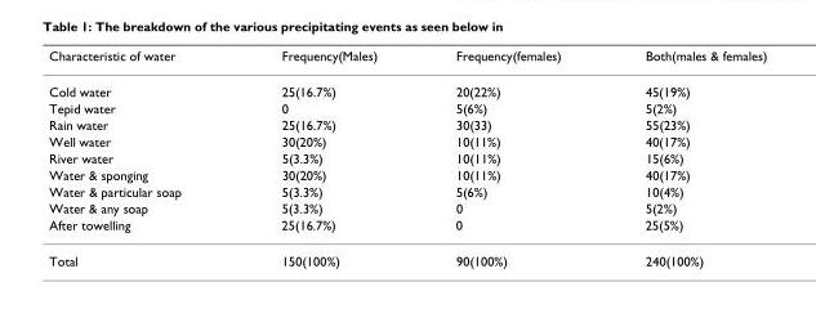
<table><thead><tr><td>Characteristic of water</td><td>Frequency(Males)</td><td>Frequency(females)</td><td>Both(males &amp; females)</td></tr></thead><tbody><tr><td>Cold water</td><td>25(16.7%)</td><td>20(22%)</td><td>45(19%)</td></tr><tr><td>Tepid water</td><td>0</td><td>5(6%)</td><td>5(2%)</td></tr><tr><td>Rain water</td><td>25(16.7%)</td><td>30(33)</td><td>55(23%)</td></tr><tr><td>Well water</td><td>30(20%)</td><td>10(11%)</td><td>40(17%)</td></tr><tr><td>River water</td><td>5(3.3%)</td><td>10(11%)</td><td>15(6%)</td></tr><tr><td>Water &amp; sponging</td><td>30(20%)</td><td>10(11%)</td><td>40(17%)</td></tr><tr><td>Water &amp; particular soap</td><td>5(3.3%)</td><td>5(6%)</td><td>10(4%)</td></tr><tr><td>Water &amp; any soap</td><td>5(3.3%)</td><td>0</td><td>5(2%)</td></tr><tr><td>After towelling</td><td>25(16.7%)</td><td>0</td><td>25(5%)</td></tr><tr><td>Total</td><td>150(100%)</td><td>90(100%)</td><td>240(100%)</td></tr></tbody></table>